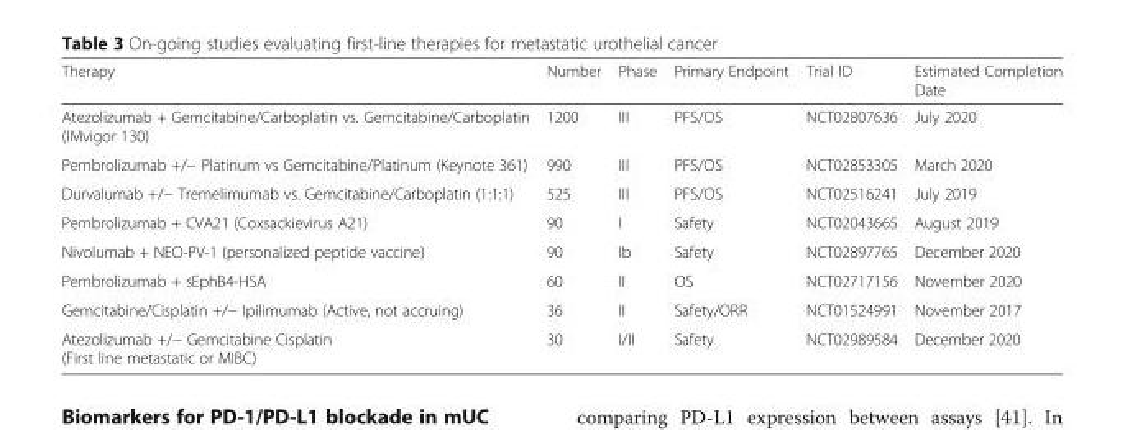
<table><thead><tr><td>Therapy</td><td>Number</td><td>Phase</td><td>Primary Endpoint</td><td>Trial ID</td><td>Estimated Completion Date</td></tr></thead><tbody><tr><td>Atezolizumab + Gemcitabine/Carboplatin vs. Gemcitabine/Carboplatin (IMvigor 130)</td><td>1200</td><td>III</td><td>PFS/OS</td><td>NCT02807636</td><td>July 2020</td></tr><tr><td>Pembrolizumab +/− Platinum vs Gemcitabine/Platinum (Keynote 361)</td><td>990</td><td>III</td><td>PFS/OS</td><td>NCT02853305</td><td>March 2020</td></tr><tr><td>Durvalumab +/− Tremelimumab vs. Gemcitabine/Carboplatin (1:1:1)</td><td>525</td><td>III</td><td>PFS/OS</td><td>NCT02516241</td><td>July 2019</td></tr><tr><td>Pembrolizumab + CVA21 (Coxsackievirus A21)</td><td>90</td><td>I</td><td>Safety</td><td>NCT02043665</td><td>August 2019</td></tr><tr><td>Nivolumab + NEO-PV-1 (personalized peptide vaccine)</td><td>90</td><td>Ib</td><td>Safety</td><td>NCT02897765</td><td>December 2020</td></tr><tr><td>Pembrolizumab + sEphB4-HSA</td><td>60</td><td>II</td><td>OS</td><td>NCT02717156</td><td>November 2020</td></tr><tr><td>Gemcitabine/Cisplatin +/− Ipilimumab (Active, not accruing)</td><td>36</td><td>II</td><td>Safety/ORR</td><td>NCT01524991</td><td>November 2017</td></tr><tr><td>Atezolizumab +/− Gemcitabine Cisplatin (First line metastatic or MIBC)</td><td>30</td><td>I/II</td><td>Safety</td><td>NCT02989584</td><td>December 2020</td></tr></tbody></table>